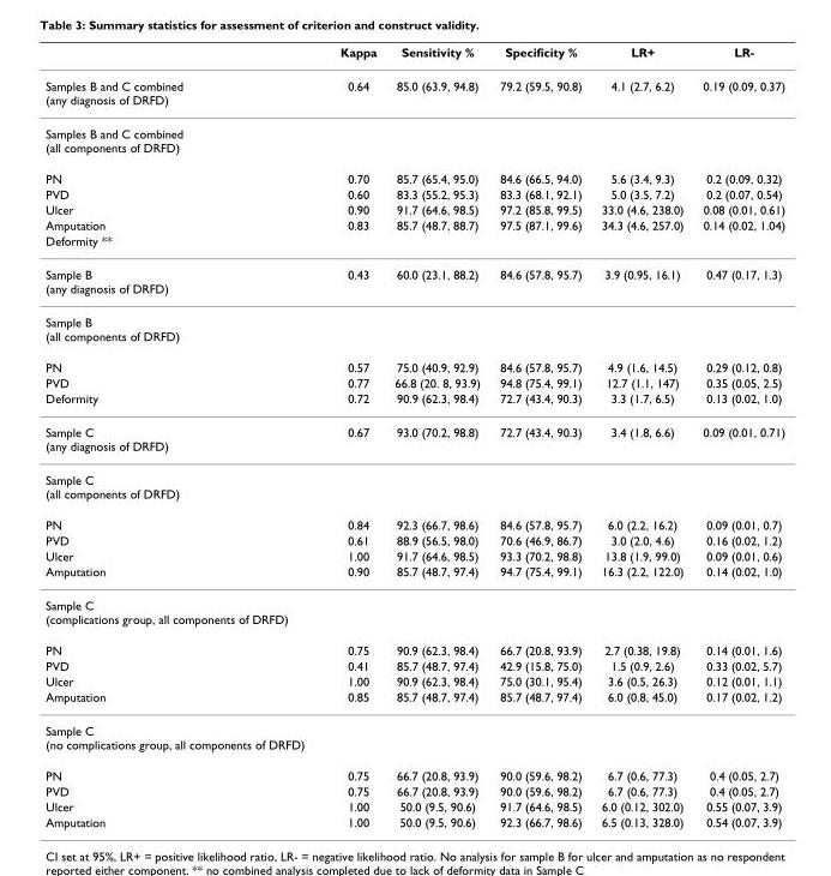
<table><thead><tr><td></td><td>Kappa</td><td>Sensitivity %</td><td>Specificity %</td><td>LR+</td><td>LR-</td></tr></thead><tbody><tr><td>Samples B and C combined (any diagnosis of DRFD)</td><td>0.64</td><td>85.0 (63.9, 94.8)</td><td>79.2 (59.5, 90.8)</td><td>4.1 (2.7, 6.2)</td><td>0.19 (0.09, 0.37)</td></tr><tr><td colspan="6">Samples B and C combined (all components of DRFD)</td></tr><tr><td>PN</td><td>0.70</td><td>85.7 (65.4, 95.0)</td><td>84.6 (66.5, 94.0)</td><td>5.6 (3.4, 9.3)</td><td>0.2 (0.09, 0.32)</td></tr><tr><td>PVD</td><td>0.60</td><td>83.3 (55.2, 95.3)</td><td>83.3 (68.1, 92.1)</td><td>5.0 (3.5, 7.2)</td><td>0.2 (0.07, 0.54)</td></tr><tr><td>Ulcer</td><td>0.90</td><td>91.7 (64.6, 98.5)</td><td>97.2 (85.8, 99.5)</td><td>33.0 (4.6, 238.0)</td><td>0.08 (0.01, 0.61)</td></tr><tr><td>Amputation</td><td>0.83</td><td>85.7 (48.7, 88.7)</td><td>97.5 (87.1, 99.6)</td><td>34.3 (4.6, 257.0)</td><td>0.14 (0.02, 1.04)</td></tr><tr><td colspan="6">Deformity **</td></tr><tr><td>Sample B (any diagnosis of DRFD)</td><td>0.43</td><td>60.0 (23.1, 88.2)</td><td>84.6 (57.8, 95.7)</td><td>3.9 (0.95, 16.1)</td><td>0.47 (0.17, 1.3)</td></tr><tr><td colspan="6">Sample B (all components of DRFD)</td></tr><tr><td>PN</td><td>0.57</td><td>75.0 (40.9, 92.9)</td><td>84.6 (57.8, 95.7)</td><td>4.9 (1.6, 14.5)</td><td>0.29 (0.12, 0.8)</td></tr><tr><td>PVD</td><td>0.77</td><td>66.8 (20. 8, 93.9)</td><td>94.8 (75.4, 99.1)</td><td>12.7 (1.1, 147)</td><td>0.35 (0.05, 2.5)</td></tr><tr><td>Deformity</td><td>0.72</td><td>90.9 (62.3, 98.4)</td><td>72.7 (43.4, 90.3)</td><td>3.3 (1.7, 6.5)</td><td>0.13 (0.02, 1.0)</td></tr><tr><td>Sample C (any diagnosis of DRFD)</td><td>0.67</td><td>93.0 (70.2, 98.8)</td><td>72.7 (43.4, 90.3)</td><td>3.4 (1.8, 6.6)</td><td>0.09 (0.01, 0.71)</td></tr><tr><td colspan="6">Sample C (all components of DRFD)</td></tr><tr><td>PN</td><td>0.84</td><td>92.3 (66.7, 98.6)</td><td>84.6 (57.8, 95.7)</td><td>6.0 (2.2, 16.2)</td><td>0.09 (0.01, 0.7)</td></tr><tr><td>PVD</td><td>0.61</td><td>88.9 (56.5, 98.0)</td><td>70.6 (46.9, 86.7)</td><td>3.0 (2.0, 4.6)</td><td>0.16 (0.02, 1.2)</td></tr><tr><td>Ulcer</td><td>1.00</td><td>91.7 (64.6, 98.5)</td><td>93.3 (70.2, 98.8)</td><td>13.8 (1.9, 99.0)</td><td>0.09 (0.01, 0.6)</td></tr><tr><td>Amputation</td><td>0.90</td><td>85.7 (48.7, 97.4)</td><td>94.7 (75.4, 99.1)</td><td>16.3 (2.2, 122.0)</td><td>0.14 (0.02, 1.0)</td></tr><tr><td colspan="6">Sample C (complications group, all components of DRFD)</td></tr><tr><td>PN</td><td>0.75</td><td>90.9 (62.3, 98.4)</td><td>66.7 (20.8, 93.9)</td><td>2.7 (0.38, 19.8)</td><td>0.14 (0.01, 1.6)</td></tr><tr><td>PVD</td><td>0.41</td><td>85.7 (48.7, 97.4)</td><td>42.9 (15.8, 75.0)</td><td>1.5 (0.9, 2.6)</td><td>0.33 (0.02, 5.7)</td></tr><tr><td>Ulcer</td><td>1.00</td><td>90.9 (62.3, 98.4)</td><td>75.0 (30.1, 95.4)</td><td>3.6 (0.5, 26.3)</td><td>0.12 (0.01, 1.1)</td></tr><tr><td>Amputation</td><td>0.85</td><td>85.7 (48.7, 97.4)</td><td>85.7 (48.7, 97.4)</td><td>6.0 (0.8, 45.0)</td><td>0.17 (0.02, 1.2)</td></tr><tr><td colspan="6">Sample C (no complications group, all components of DRFD)</td></tr><tr><td>PN</td><td>0.75</td><td>66.7 (20.8, 93.9)</td><td>90.0 (59.6, 98.2)</td><td>6.7 (0.6, 77.3)</td><td>0.4 (0.05, 2.7)</td></tr><tr><td>PVD</td><td>0.75</td><td>66.7 (20.8, 93.9)</td><td>90.0 (59.6, 98.2)</td><td>6.7 (0.6, 77.3)</td><td>0.4 (0.05, 2.7)</td></tr><tr><td>Ulcer</td><td>1.00</td><td>50.0 (9.5, 90.6)</td><td>91.7 (64.6, 98.5)</td><td>6.0 (0.12, 302.0)</td><td>0.55 (0.07, 3.9)</td></tr><tr><td>Amputation</td><td>1.00</td><td>50.0 (9.5, 90.6)</td><td>92.3 (66.7, 98.6)</td><td>6.5 (0.13, 328.0)</td><td>0.54 (0.07, 3.9)</td></tr></tbody></table>